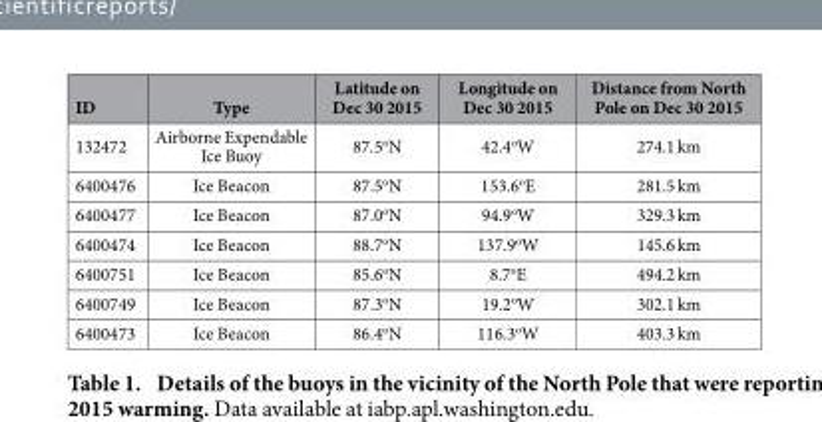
<table><thead><tr><td>ID</td><td>Type</td><td>Latitude on Dec 30 2015</td><td>Longitude on Dec 30 2015</td><td>Distance from North Pole on Dec 30 2015</td></tr></thead><tbody><tr><td>132472</td><td>Airborne Expendable Ice Buoy</td><td>87.5<sup>o</sup>N</td><td>42.4<sup>o</sup>W</td><td>274.1 km</td></tr><tr><td>6400476</td><td>Ice Beacon</td><td>87.5<sup>o</sup>N</td><td>153.6<sup>o</sup>E</td><td>281.5 km</td></tr><tr><td>6400477</td><td>Ice Beacon</td><td>87.0<sup>o</sup>N</td><td>94.9<sup>o</sup>W</td><td>329.3 km</td></tr><tr><td>6400474</td><td>Ice Beacon</td><td>88.7<sup>o</sup>N</td><td>137.9<sup>o</sup>W</td><td>145.6 km</td></tr><tr><td>6400751</td><td>Ice Beacon</td><td>85.6<sup>o</sup>N</td><td>8.7<sup>o</sup>E</td><td>494.2 km</td></tr><tr><td>6400749</td><td>Ice Beacon</td><td>87.3<sup>o</sup>N</td><td>19.2<sup>o</sup>W</td><td>302.1 km</td></tr><tr><td>6400473</td><td>Ice Beacon</td><td>86.4<sup>o</sup>N</td><td>116.3<sup>o</sup>W</td><td>403.3 km</td></tr></tbody></table>